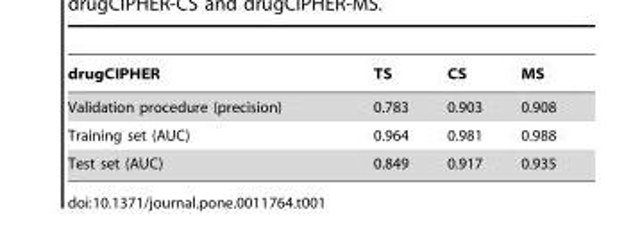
<table><thead><tr><td>drugCIPHER</td><td>TS</td><td>CS</td><td>MS</td></tr></thead><tbody><tr><td>Validation procedure (precision)</td><td>0.783</td><td>0.903</td><td>0.908</td></tr><tr><td>Training set (AUC)</td><td>0.964</td><td>0.981</td><td>0.988</td></tr><tr><td>Test set (AUC)</td><td>0.849</td><td>0.917</td><td>0.935</td></tr></tbody></table>